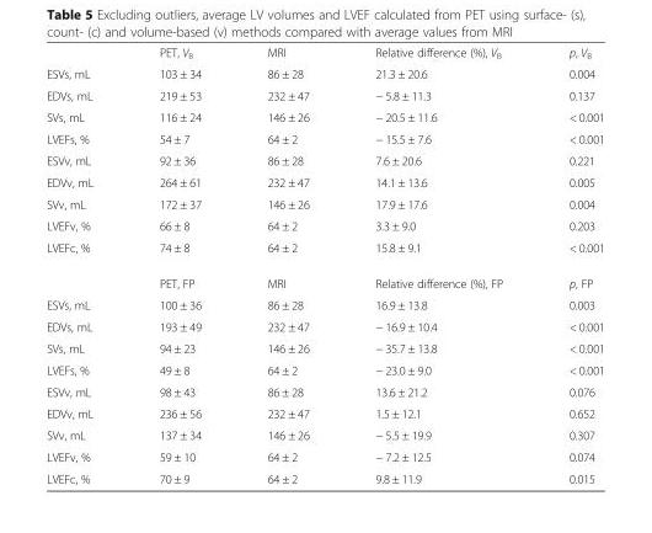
<table><thead><tr><td></td><td>PET, V<sub>B</sub></td><td>MRI</td><td>Relative difference (%), V<sub>B</sub></td><td>p, V<sub>B</sub></td></tr></thead><tbody><tr><td>ESVs, mL</td><td>103 ± 34</td><td>86 ± 28</td><td>21.3 ± 20.6</td><td>0.004</td></tr><tr><td>EDVs, mL</td><td>219 ± 53</td><td>232 ± 47</td><td>− 5.8 ± 11.3</td><td>0.137</td></tr><tr><td>SVs, mL</td><td>116 ± 24</td><td>146 ± 26</td><td>− 20.5 ± 11.6</td><td>&lt; 0.001</td></tr><tr><td>LVEFs, %</td><td>54 ± 7</td><td>64 ± 2</td><td>− 15.5 ± 7.6</td><td>&lt; 0.001</td></tr><tr><td>ESVv, mL</td><td>92 ± 36</td><td>86 ± 28</td><td>7.6 ± 20.6</td><td>0.221</td></tr><tr><td>EDVv, mL</td><td>264 ± 61</td><td>232 ± 47</td><td>14.1 ± 13.6</td><td>0.005</td></tr><tr><td>SVv, mL</td><td>172 ± 37</td><td>146 ± 26</td><td>17.9 ± 17.6</td><td>0.004</td></tr><tr><td>LVEFv, %</td><td>66 ± 8</td><td>64 ± 2</td><td>3.3 ± 9.0</td><td>0.203</td></tr><tr><td rowspan="2">LVEFc, %</td><td>74 ± 8</td><td>64 ± 2</td><td>15.8 ± 9.1</td><td>&lt; 0.001</td></tr><tr><td>PET, FP</td><td>MRI</td><td>Relative difference (%), FP</td><td>p, FP</td></tr><tr><td>ESVs, mL</td><td>100 ± 36</td><td>86 ± 28</td><td>16.9 ± 13.8</td><td>0.003</td></tr><tr><td>EDVs, mL</td><td>193 ± 49</td><td>232 ± 47</td><td>− 16.9 ± 10.4</td><td>&lt; 0.001</td></tr><tr><td>SVs, mL</td><td>94 ± 23</td><td>146 ± 26</td><td>− 35.7 ± 13.8</td><td>&lt; 0.001</td></tr><tr><td>LVEFs, %</td><td>49 ± 8</td><td>64 ± 2</td><td>− 23.0 ± 9.0</td><td>&lt; 0.001</td></tr><tr><td>ESVv, mL</td><td>98 ± 43</td><td>86 ± 28</td><td>13.6 ± 21.2</td><td>0.076</td></tr><tr><td>EDVv, mL</td><td>236 ± 56</td><td>232 ± 47</td><td>1.5 ± 12.1</td><td>0.652</td></tr><tr><td>SVv, mL</td><td>137 ± 34</td><td>146 ± 26</td><td>− 5.5 ± 19.9</td><td>0.307</td></tr><tr><td>LVEFv, %</td><td>59 ± 10</td><td>64 ± 2</td><td>− 7.2 ± 12.5</td><td>0.074</td></tr><tr><td>LVEFc, %</td><td>70 ± 9</td><td>64 ± 2</td><td>9.8 ± 11.9</td><td>0.015</td></tr></tbody></table>